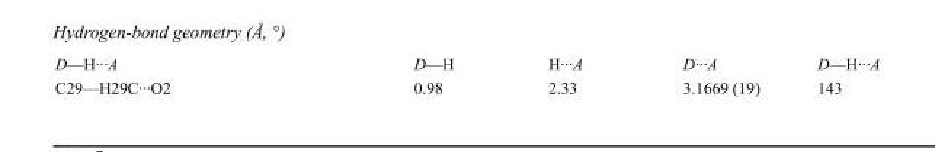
<table><tbody><tr><td>D—H···A</td><td>D—H</td><td>H···A</td><td>D···A</td><td>D—H···A</td></tr><tr><td>C29—H29C···O2</td><td>0.98</td><td>2.33</td><td>3.1669 (19)</td><td>143</td></tr></tbody></table>